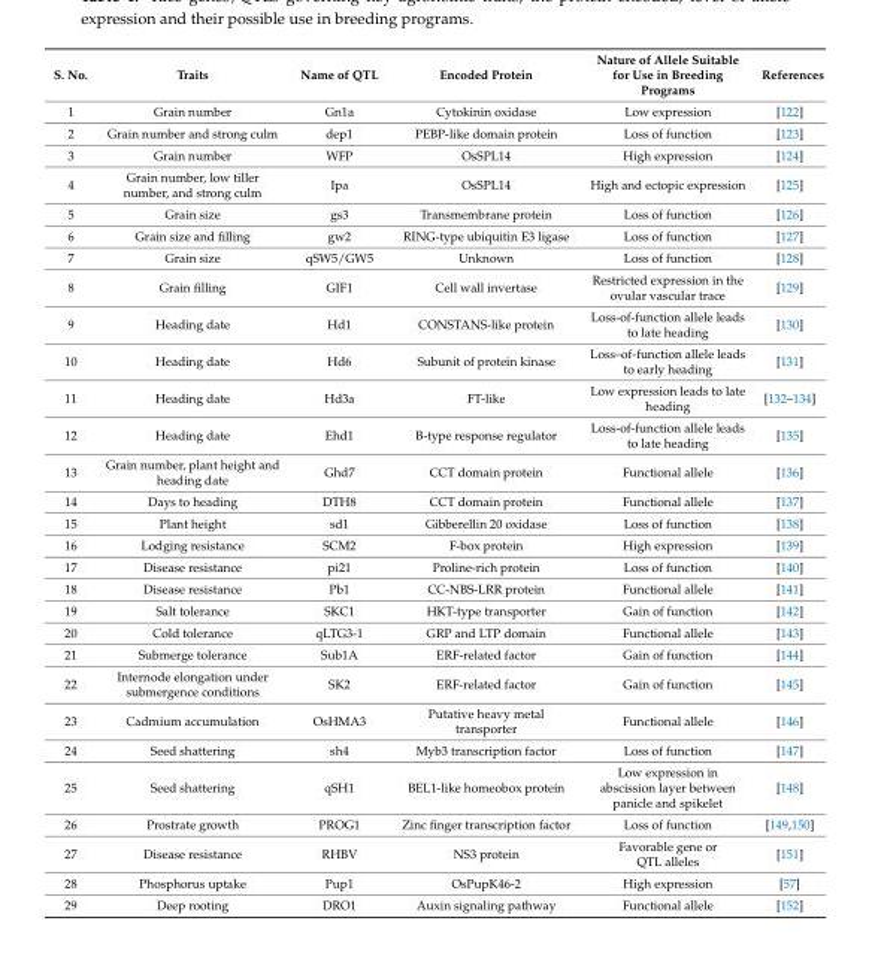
<table><thead><tr><td>S. No.</td><td>Traits</td><td>Name of QTL</td><td>Encoded Protein</td><td>Nature of Allele Suitable for Use in Breeding Programs</td><td>References</td></tr></thead><tbody><tr><td>1</td><td>Grain number</td><td>Gn1a</td><td>Cytokinin oxidase</td><td>Low expression</td><td>[122]</td></tr><tr><td>2</td><td>Grain number and strong culm</td><td>dep1</td><td>PEBP-like domain protein</td><td>Loss of function</td><td>[123]</td></tr><tr><td>3</td><td>Grain number</td><td>WFP</td><td>OsSPL14</td><td>High expression</td><td>[124]</td></tr><tr><td>4</td><td>Grain number, low tiller number, and strong culm</td><td>Ipa</td><td>OsSPL14</td><td>High and ectopic expression</td><td>[125]</td></tr><tr><td>5</td><td>Grain size</td><td>gs3</td><td>Transmembrane protein</td><td>Loss of function</td><td>[126]</td></tr><tr><td>6</td><td>Grain size and filling</td><td>gw2</td><td>RING-type ubiquitin E3 ligase</td><td>Loss of function</td><td>[127]</td></tr><tr><td>7</td><td>Grain size</td><td>qSW5/GW5</td><td>Unknown</td><td>Loss of function</td><td>[128]</td></tr><tr><td>8</td><td>Grain filling</td><td>GIF1</td><td>Cell wall invertase</td><td>Restricted expression in the ovular vascular trace</td><td>[129]</td></tr><tr><td>9</td><td>Heading date</td><td>Hd1</td><td>CONSTANS-like protein</td><td>Loss-of-function allele leads to late heading</td><td>[130]</td></tr><tr><td>10</td><td>Heading date</td><td>Hd6</td><td>Subunit of protein kinase</td><td>Loss–of-function allele leads to early heading</td><td>[131]</td></tr><tr><td>11</td><td>Heading date</td><td>Hd3a</td><td>FT-like</td><td>Low expression leads to late heading</td><td>[132–134]</td></tr><tr><td>12</td><td>Heading date</td><td>Ehd1</td><td>B-type response regulator</td><td>Loss-of-function allele leads to late heading</td><td>[135]</td></tr><tr><td>13</td><td>Grain number, plant height and heading date</td><td>Ghd7</td><td>CCT domain protein</td><td>Functional allele</td><td>[136]</td></tr><tr><td>14</td><td>Days to heading</td><td>DTH8</td><td>CCT domain protein</td><td>Functional allele</td><td>[137]</td></tr><tr><td>15</td><td>Plant height</td><td>sd1</td><td>Gibberellin 20 oxidase</td><td>Loss of function</td><td>[138]</td></tr><tr><td>16</td><td>Lodging resistance</td><td>SCM2</td><td>F-box protein</td><td>High expression</td><td>[139]</td></tr><tr><td>17</td><td>Disease resistance</td><td>pi21</td><td>Proline-rich protein</td><td>Loss of function</td><td>[140]</td></tr><tr><td>18</td><td>Disease resistance</td><td>Pb1</td><td>CC-NBS-LRR protein</td><td>Functional allele</td><td>[141]</td></tr><tr><td>19</td><td>Salt tolerance</td><td>SKC1</td><td>HKT-type transporter</td><td>Gain of function</td><td>[142]</td></tr><tr><td>20</td><td>Cold tolerance</td><td>qLTG3-1</td><td>GRP and LTP domain</td><td>Functional allele</td><td>[143]</td></tr><tr><td>21</td><td>Submerge tolerance</td><td>Sub1A</td><td>ERF-related factor</td><td>Gain of function</td><td>[144]</td></tr><tr><td>22</td><td>Internode elongation under submergence conditions</td><td>SK2</td><td>ERF-related factor</td><td>Gain of function</td><td>[145]</td></tr><tr><td>23</td><td>Cadmium accumulation</td><td>OsHMA3</td><td>Putative heavy metal transporter</td><td>Functional allele</td><td>[146]</td></tr><tr><td>24</td><td>Seed shattering</td><td>sh4</td><td>Myb3 transcription factor</td><td>Loss of function</td><td>[147]</td></tr><tr><td>25</td><td>Seed shattering</td><td>qSH1</td><td>BEL1-like homeobox protein</td><td>Low expression in abscission layer between panicle and spikelet</td><td>[148]</td></tr><tr><td>26</td><td>Prostrate growth</td><td>PROG1</td><td>Zinc finger transcription factor</td><td>Loss of function</td><td>[149,150]</td></tr><tr><td>27</td><td>Disease resistance</td><td>RHBV</td><td>NS3 protein</td><td>Favorable gene or QTL alleles</td><td>[151]</td></tr><tr><td>28</td><td>Phosphorus uptake</td><td>Pup1</td><td>OsPupK46-2</td><td>High expression</td><td>[57]</td></tr><tr><td>29</td><td>Deep rooting</td><td>DRO1</td><td>Auxin signaling pathway</td><td>Functional allele</td><td>[152]</td></tr></tbody></table>